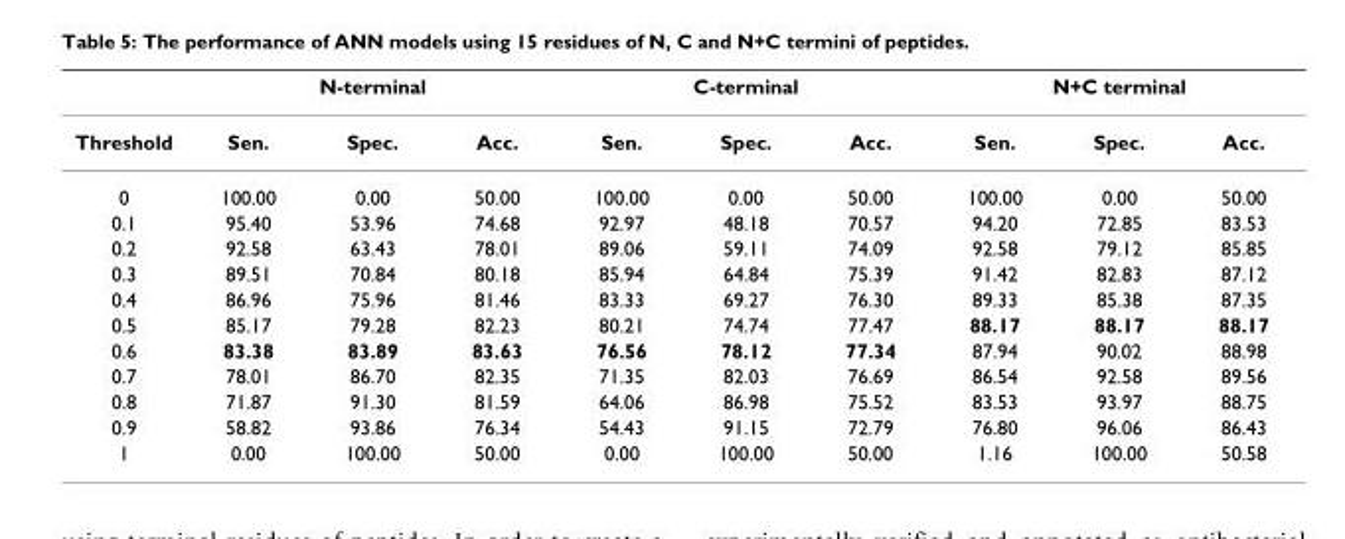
<table><thead><tr><td rowspan="2">Threshold</td><td colspan="3">N-terminal</td><td colspan="3">C-terminal</td><td colspan="3">N+C terminal</td></tr><tr><td>Sen.</td><td>Spec.</td><td>Acc.</td><td>Sen.</td><td>Spec.</td><td>Acc.</td><td>Sen.</td><td>Spec.</td><td>Acc.</td></tr></thead><tbody><tr><td>0</td><td>100.00</td><td>0.00</td><td>50.00</td><td>100.00</td><td>0.00</td><td>50.00</td><td>100.00</td><td>0.00</td><td>50.00</td></tr><tr><td>0.1</td><td>95.40</td><td>53.96</td><td>74.68</td><td>92.97</td><td>48.18</td><td>70.57</td><td>94.20</td><td>72.85</td><td>83.53</td></tr><tr><td>0.2</td><td>92.58</td><td>63.43</td><td>78.01</td><td>89.06</td><td>59.11</td><td>74.09</td><td>92.58</td><td>79.12</td><td>85.85</td></tr><tr><td>0.3</td><td>89.51</td><td>70.84</td><td>80.18</td><td>85.94</td><td>64.84</td><td>75.39</td><td>91.42</td><td>82.83</td><td>87.12</td></tr><tr><td>0.4</td><td>86.96</td><td>75.96</td><td>81.46</td><td>83.33</td><td>69.27</td><td>76.30</td><td>89.33</td><td>85.38</td><td>87.35</td></tr><tr><td>0.5</td><td>85.17</td><td>79.28</td><td>82.23</td><td>80.21</td><td>74.74</td><td>77.47</td><td>88.17</td><td>88.17</td><td>88.17</td></tr><tr><td>0.6</td><td>83.38</td><td>83.89</td><td>83.63</td><td>76.56</td><td>78.12</td><td>77.34</td><td>87.94</td><td>90.02</td><td>88.98</td></tr><tr><td>0.7</td><td>78.01</td><td>86.70</td><td>82.35</td><td>71.35</td><td>82.03</td><td>76.69</td><td>86.54</td><td>92.58</td><td>89.56</td></tr><tr><td>0.8</td><td>71.87</td><td>91.30</td><td>81.59</td><td>64.06</td><td>86.98</td><td>75.52</td><td>83.53</td><td>93.97</td><td>88.75</td></tr><tr><td>0.9</td><td>58.82</td><td>93.86</td><td>76.34</td><td>54.43</td><td>91.15</td><td>72.79</td><td>76.80</td><td>96.06</td><td>86.43</td></tr><tr><td>1</td><td>0.00</td><td>100.00</td><td>50.00</td><td>0.00</td><td>100.00</td><td>50.00</td><td>1.16</td><td>100.00</td><td>50.58</td></tr></tbody></table>